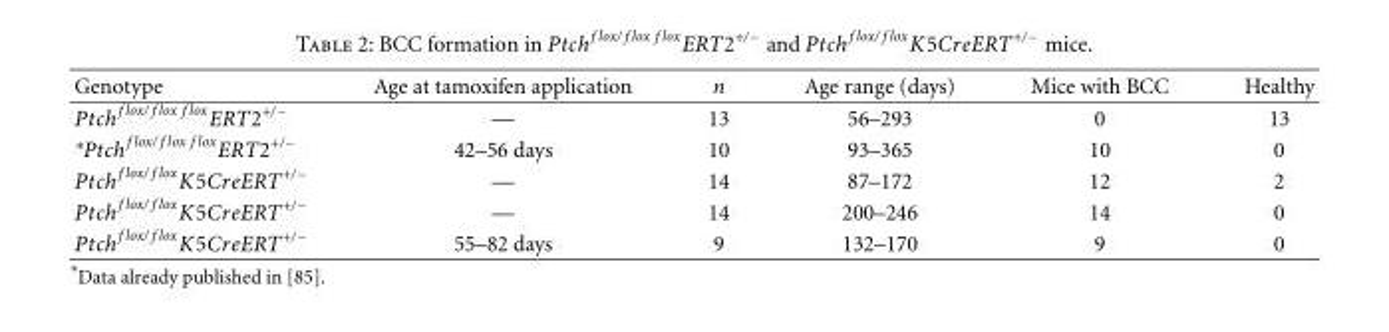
<table><thead><tr><td>Genotype</td><td>Age at tamoxifen application</td><td>n</td><td>Age range (days)</td><td>Mice with BCC</td><td>Healthy</td></tr></thead><tbody><tr><td>Ptch f lox/ f lox f loxERT2+/−</td><td>—</td><td>13</td><td>56–293</td><td>0</td><td>13</td></tr><tr><td>∗Ptch f lox/ f lox f loxERT2+/−</td><td>42–56 days</td><td>10</td><td>93–365</td><td>10</td><td>0</td></tr><tr><td>Ptch <sup>f lox/ f lox</sup>K5CreERT<sup>+/−</sup></td><td>—</td><td>14</td><td>87–172</td><td>12</td><td>2</td></tr><tr><td>Ptch <sup>f lox/ f lox</sup>K5CreERT<sup>+/−</sup></td><td>—</td><td>14</td><td>200–246</td><td>14</td><td>0</td></tr><tr><td>Ptch <sup>f lox/ f lox</sup>K5CreERT<sup>+/−</sup></td><td>55–82 days</td><td>9</td><td>132–170</td><td>9</td><td>0</td></tr></tbody></table>